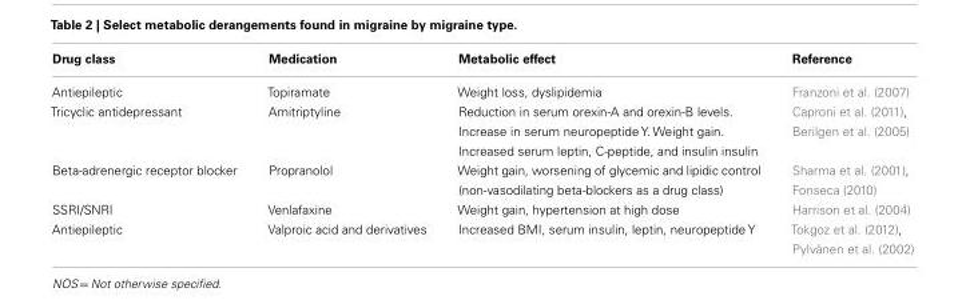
<table><thead><tr><td>Drug class</td><td>Medication</td><td>Metabolic effect</td><td>Reference</td></tr></thead><tbody><tr><td>Antiepileptic</td><td>Topiramate</td><td>Weight loss, dyslipidemia</td><td>Franzoni et al. (2007)</td></tr><tr><td>Tricyclic antidepressant</td><td>Amitriptyline</td><td>Reduction in serum orexin-A and orexin-B levels. Increase in serum neuropeptide Y. Weight gain. Increased serum leptin, C-peptide, and insulin insulin</td><td>Caproni et al. (2011), Berilgen et al. (2005)</td></tr><tr><td>Beta-adrenergic receptor blocker</td><td>Propranolol</td><td>Weight gain, worsening of glycemic and lipidic control (non-vasodilating beta-blockers as a drug class)</td><td>Sharma et al. (2001), Fonseca (2010)</td></tr><tr><td>SSRI/SNRI</td><td>Venlafaxine</td><td>Weight gain, hypertension at high dose</td><td>Harrison et al. (2004)</td></tr><tr><td>Antiepileptic</td><td>Valproic acid and derivatives</td><td>Increased BMI, serum insulin, leptin, neuropeptide Y</td><td>Tokgoz et al. (2012), Pylvänen et al. (2002)</td></tr></tbody></table>